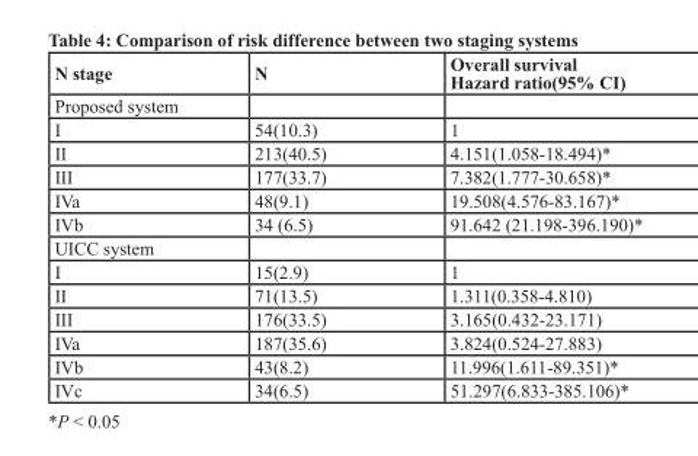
<table><thead><tr><td>N stage</td><td>N</td><td>Overall survival Hazard ratio(95% CI)</td></tr></thead><tbody><tr><td colspan="3">Proposed system</td></tr><tr><td>I</td><td>54(10.3)</td><td>1</td></tr><tr><td>II</td><td>213(40.5)</td><td>4.151(1.058-18.494)*</td></tr><tr><td>III</td><td>177(33.7)</td><td>7.382(1.777-30.658)*</td></tr><tr><td>IVa</td><td>48(9.1)</td><td>19.508(4.576-83.167)*</td></tr><tr><td>IVb</td><td>34 (6.5)</td><td>91.642 (21.198-396.190)*</td></tr><tr><td colspan="3">UICC system</td></tr><tr><td>I</td><td>15(2.9)</td><td>1</td></tr><tr><td>II</td><td>71(13.5)</td><td>1.311(0.358-4.810)</td></tr><tr><td>III</td><td>176(33.5)</td><td>3.165(0.432-23.171)</td></tr><tr><td>IVa</td><td>187(35.6)</td><td>3.824(0.524-27.883)</td></tr><tr><td>IVb</td><td>43(8.2)</td><td>11.996(1.611-89.351)*</td></tr><tr><td>IVc</td><td>34(6.5)</td><td>51.297(6.833-385.106)*</td></tr></tbody></table>